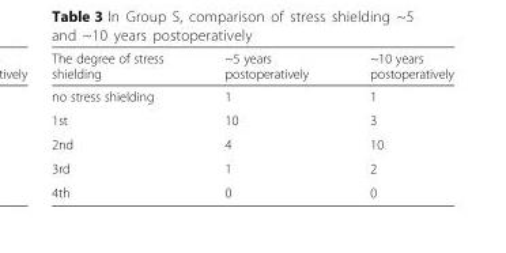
<table><thead><tr><td>The degree of stress shielding</td><td>~5 years postoperatively</td><td>~10 years postoperatively</td></tr></thead><tbody><tr><td>no stress shielding</td><td>1</td><td>1</td></tr><tr><td>1st</td><td>10</td><td>3</td></tr><tr><td>2nd</td><td>4</td><td>10</td></tr><tr><td>3rd</td><td>1</td><td>2</td></tr><tr><td>4th</td><td>0</td><td>0</td></tr></tbody></table>